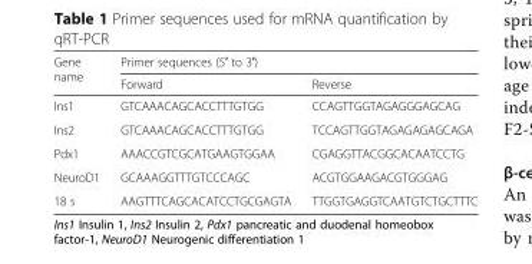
<table><thead><tr><td rowspan="2">Gene name</td><td colspan="2">Primer sequences (5′ to 3′)</td></tr><tr><td>Forward</td><td>Reverse</td></tr></thead><tbody><tr><td>Ins1</td><td>GTCAAACAGCACCTTTGTGG</td><td>CCAGTTGGTAGAGGGAGCAG</td></tr><tr><td>Ins2</td><td>GTCAAACAGCACCTTTGTGG</td><td>TCCAGTTGGTAGAGAGAGCAGA</td></tr><tr><td>Pdx1</td><td>AAACCGTCGCATGAAGTGGAA</td><td>CGAGGTTACGGCACAATCCTG</td></tr><tr><td>NeuroD1</td><td>GCAAAGGTTTGTCCCAGC</td><td>ACGTGGAAGACGTGGGAG</td></tr><tr><td>18 s</td><td>AAGTTTCAGCACATCCTGCGAGTA</td><td>TTGGTGAGGTCAATGTCTGCTTTC</td></tr></tbody></table>